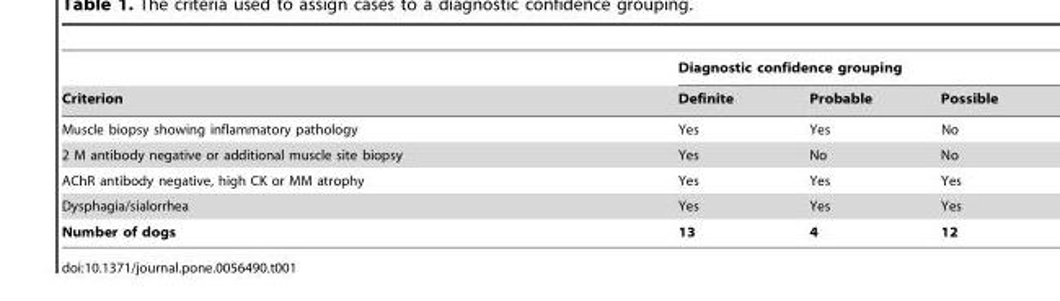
<table><thead><tr><td rowspan="2">Criterion</td><td colspan="3">Diagnostic confidence grouping</td></tr><tr><td>Definite</td><td>Probable</td><td>Possible</td></tr></thead><tbody><tr><td>Muscle biopsy showing inflammatory pathology</td><td>Yes</td><td>Yes</td><td>No</td></tr><tr><td>2 M antibody negative or additional muscle site biopsy</td><td>Yes</td><td>No</td><td>No</td></tr><tr><td>AChR antibody negative, high CK or MM atrophy</td><td>Yes</td><td>Yes</td><td>Yes</td></tr><tr><td>Dysphagia/sialorrhea</td><td>Yes</td><td>Yes</td><td>Yes</td></tr><tr><td>Number of dogs</td><td>13</td><td>4</td><td>12</td></tr></tbody></table>